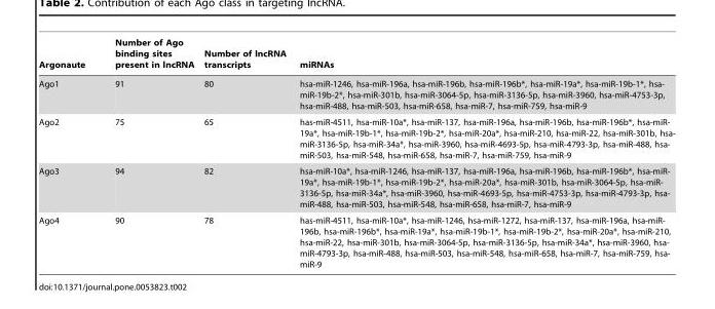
<table><thead><tr><td>Argonaute</td><td>Number of Ago binding sites present in lncRNA</td><td>Number of lncRNA transcripts</td><td>miRNAs</td></tr></thead><tbody><tr><td>Ago1</td><td>91</td><td>80</td><td>hsa-miR-1246, hsa-miR-196a, hsa-miR-196b, hsa-miR-196b*, hsa-miR-19a*, hsa-miR-19b-1*, hsa- miR-19b-2*, hsa-miR-301b, hsa-miR-3064-5p, hsa-miR-3136-5p, hsa-miR-3960, hsa-miR-4753-3p, hsa-miR-488, hsa-miR-503, hsa-miR-658, hsa-miR-7, hsa-miR-759, hsa-miR-9</td></tr><tr><td>Ago2</td><td>75</td><td>65</td><td>has-miR-4511, hsa-miR-10a*, hsa-miR-137, hsa-miR-196a, hsa-miR-196b, hsa-miR-196b*, hsa-miR- 19a*, hsa-miR-19b-1*, hsa-miR-19b-2*, hsa-miR-20a*, hsa-miR-210, hsa-miR-22, hsa-miR-301b, hsa- miR-3136-5p, hsa-miR-34a*, hsa-miR-3960, hsa-miR-4693-5p, hsa-miR-4793-3p, hsa-miR-488, hsa- miR-503, hsa-miR-548, hsa-miR-658, hsa-miR-7, hsa-miR-759, hsa-miR-9</td></tr><tr><td>Ago3</td><td>94</td><td>82</td><td>hsa-miR-10a*, hsa-miR-1246, hsa-miR-137, hsa-miR-196a, hsa-miR-196b, hsa-miR-196b*, hsa-miR- 19a*, hsa-miR-19b-1*, hsa-miR-19b-2*, hsa-miR-20a*, hsa-miR-301b, hsa-miR-3064-5p, hsa-miR- 3136-5p, hsa-miR-34a*, hsa-miR-3960, hsa-miR-4693-5p, hsa-miR-4753-3p, hsa-miR-4793-3p, hsa- miR-488, hsa-miR-503, hsa-miR-548, hsa-miR-658, hsa-miR-7, hsa-miR-9</td></tr><tr><td>Ago4</td><td>90</td><td>78</td><td>has-miR-4511, hsa-miR-10a*, hsa-miR-1246, hsa-miR-1272, hsa-miR-137, hsa-miR-196a, hsa-miR- 196b, hsa-miR-196b*, hsa-miR-19a*, hsa-miR-19b-1*, hsa-miR-19b-2*, hsa-miR-20a*, hsa-miR-210, hsa-miR-22, hsa-miR-301b, hsa-miR-3064-5p, hsa-miR-3136-5p, hsa-miR-34a*, hsa-miR-3960, hsa- miR-4793-3p, hsa-miR-488, hsa-miR-503, hsa-miR-548, hsa-miR-658, hsa-miR-7, hsa-miR-759, hsa- miR-9</td></tr></tbody></table>